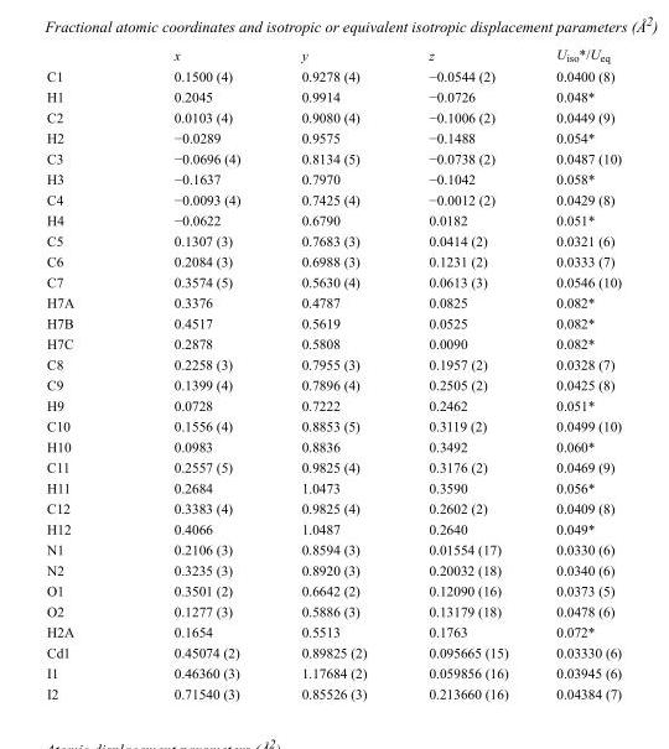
<table><thead><tr><td></td><td>x</td><td>y</td><td>z</td><td>U<sub>iso</sub>*/U<sub>eq</sub></td></tr></thead><tbody><tr><td>C1</td><td>0.1500 (4)</td><td>0.9278 (4)</td><td>−0.0544 (2)</td><td>0.0400 (8)</td></tr><tr><td>H1</td><td>0.2045</td><td>0.9914</td><td>−0.0726</td><td>0.048*</td></tr><tr><td>C2</td><td>0.0103 (4)</td><td>0.9080 (4)</td><td>−0.1006 (2)</td><td>0.0449 (9)</td></tr><tr><td>H2</td><td>−0.0289</td><td>0.9575</td><td>−0.1488</td><td>0.054*</td></tr><tr><td>C3</td><td>−0.0696 (4)</td><td>0.8134 (5)</td><td>−0.0738 (2)</td><td>0.0487 (10)</td></tr><tr><td>H3</td><td>−0.1637</td><td>0.7970</td><td>−0.1042</td><td>0.058*</td></tr><tr><td>C4</td><td>−0.0093 (4)</td><td>0.7425 (4)</td><td>−0.0012 (2)</td><td>0.0429 (8)</td></tr><tr><td>H4</td><td>−0.0622</td><td>0.6790</td><td>0.0182</td><td>0.051*</td></tr><tr><td>C5</td><td>0.1307 (3)</td><td>0.7683 (3)</td><td>0.0414 (2)</td><td>0.0321 (6)</td></tr><tr><td>C6</td><td>0.2084 (3)</td><td>0.6988 (3)</td><td>0.1231 (2)</td><td>0.0333 (7)</td></tr><tr><td>C7</td><td>0.3574 (5)</td><td>0.5630 (4)</td><td>0.0613 (3)</td><td>0.0546 (10)</td></tr><tr><td>H7A</td><td>0.3376</td><td>0.4787</td><td>0.0825</td><td>0.082*</td></tr><tr><td>H7B</td><td>0.4517</td><td>0.5619</td><td>0.0525</td><td>0.082*</td></tr><tr><td>H7C</td><td>0.2878</td><td>0.5808</td><td>0.0090</td><td>0.082*</td></tr><tr><td>C8</td><td>0.2258 (3)</td><td>0.7955 (3)</td><td>0.1957 (2)</td><td>0.0328 (7)</td></tr><tr><td>C9</td><td>0.1399 (4)</td><td>0.7896 (4)</td><td>0.2505 (2)</td><td>0.0425 (8)</td></tr><tr><td>H9</td><td>0.0728</td><td>0.7222</td><td>0.2462</td><td>0.051*</td></tr><tr><td>C10</td><td>0.1556 (4)</td><td>0.8853 (5)</td><td>0.3119 (2)</td><td>0.0499 (10)</td></tr><tr><td>H10</td><td>0.0983</td><td>0.8836</td><td>0.3492</td><td>0.060*</td></tr><tr><td>C11</td><td>0.2557 (5)</td><td>0.9825 (4)</td><td>0.3176 (2)</td><td>0.0469 (9)</td></tr><tr><td>H11</td><td>0.2684</td><td>1.0473</td><td>0.3590</td><td>0.056*</td></tr><tr><td>C12</td><td>0.3383 (4)</td><td>0.9825 (4)</td><td>0.2602 (2)</td><td>0.0409 (8)</td></tr><tr><td>H12</td><td>0.4066</td><td>1.0487</td><td>0.2640</td><td>0.049*</td></tr><tr><td>N1</td><td>0.2106 (3)</td><td>0.8594 (3)</td><td>0.01554 (17)</td><td>0.0330 (6)</td></tr><tr><td>N2</td><td>0.3235 (3)</td><td>0.8920 (3)</td><td>0.20032 (18)</td><td>0.0340 (6)</td></tr><tr><td>O1</td><td>0.3501 (2)</td><td>0.6642 (2)</td><td>0.12090 (16)</td><td>0.0373 (5)</td></tr><tr><td>O2</td><td>0.1277 (3)</td><td>0.5886 (3)</td><td>0.13179 (18)</td><td>0.0478 (6)</td></tr><tr><td>H2A</td><td>0.1654</td><td>0.5513</td><td>0.1763</td><td>0.072*</td></tr><tr><td>Cd1</td><td>0.45074 (2)</td><td>0.89825 (2)</td><td>0.095665 (15)</td><td>0.03330 (6)</td></tr><tr><td>I1</td><td>0.46360 (3)</td><td>1.17684 (2)</td><td>0.059856 (16)</td><td>0.03945 (6)</td></tr><tr><td>I2</td><td>0.71540 (3)</td><td>0.85526 (3)</td><td>0.213660 (16)</td><td>0.04384 (7)</td></tr></tbody></table>